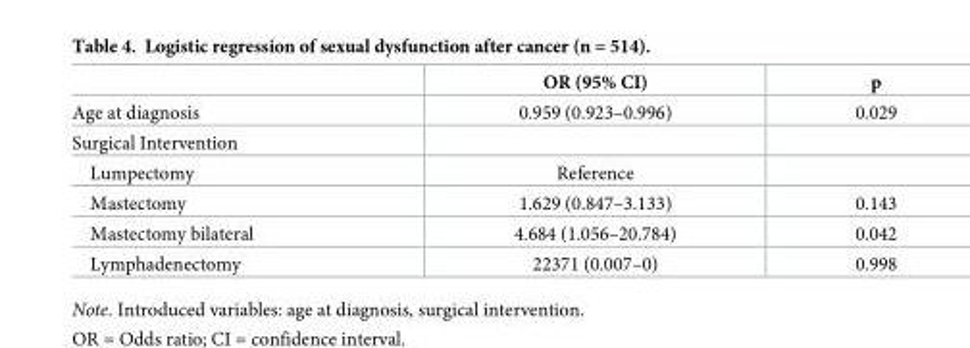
<table><thead><tr><td></td><td>OR (95% CI)</td><td>p</td></tr></thead><tbody><tr><td>Age at diagnosis</td><td>0.959 (0.923–0.996)</td><td>0.029</td></tr><tr><td colspan="3">Surgical Intervention</td></tr><tr><td>Lumpectomy</td><td>Reference</td><td></td></tr><tr><td>Mastectomy</td><td>1.629 (0.847–3.133)</td><td>0.143</td></tr><tr><td>Mastectomy bilateral</td><td>4.684 (1.056–20.784)</td><td>0.042</td></tr><tr><td>Lymphadenectomy</td><td>22371 (0.007–0)</td><td>0.998</td></tr></tbody></table>